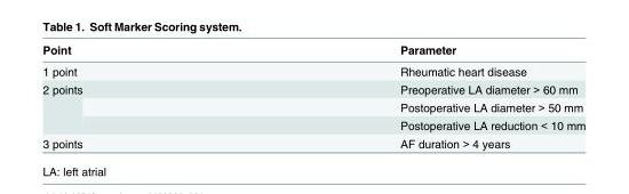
<table><thead><tr><td>Point</td><td>Parameter</td></tr></thead><tbody><tr><td>1 point</td><td>Rheumatic heart disease</td></tr><tr><td rowspan="3">2 points</td><td>Preoperative LA diameter &gt; 60 mm</td></tr><tr><td>Postoperative LA diameter &gt; 50 mm</td></tr><tr><td>Postoperative LA reduction &lt; 10 mm</td></tr><tr><td>3 points</td><td>AF duration &gt; 4 years</td></tr></tbody></table>